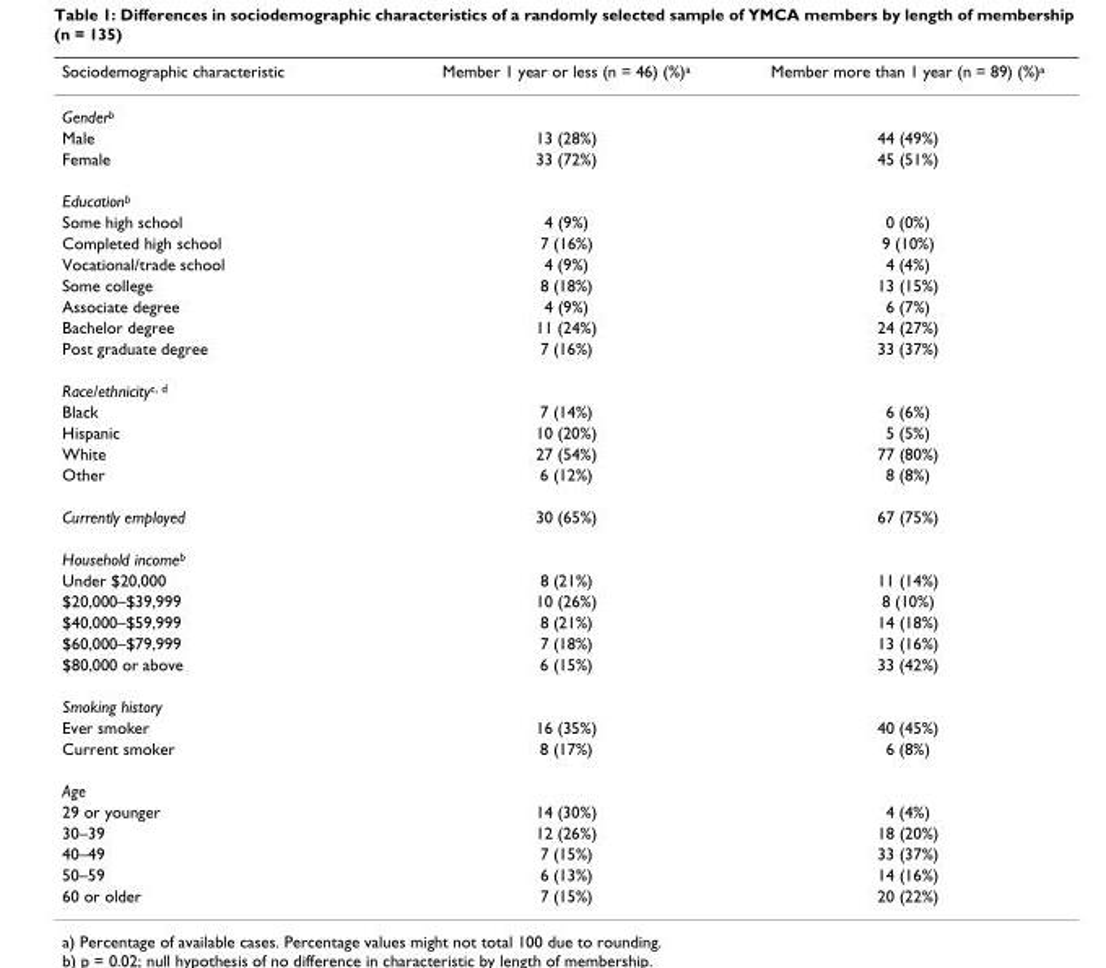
<table><thead><tr><td>Sociodemographic characteristic</td><td>Member 1 year or less (n = 46) (%)<sup>a</sup></td><td>Member more than 1 year (n = 89) (%)<sup>a</sup></td></tr></thead><tbody><tr><td colspan="3">Gender<sup>b</sup></td></tr><tr><td>Male</td><td>13 (28%)</td><td>44 (49%)</td></tr><tr><td>Female</td><td>33 (72%)</td><td>45 (51%)</td></tr><tr><td colspan="3">Education<sup>b</sup></td></tr><tr><td>Some high school</td><td>4 (9%)</td><td>0 (0%)</td></tr><tr><td>Completed high school</td><td>7 (16%)</td><td>9 (10%)</td></tr><tr><td>Vocational/trade school</td><td>4 (9%)</td><td>4 (4%)</td></tr><tr><td>Some college</td><td>8 (18%)</td><td>13 (15%)</td></tr><tr><td>Associate degree</td><td>4 (9%)</td><td>6 (7%)</td></tr><tr><td>Bachelor degree</td><td>11 (24%)</td><td>24 (27%)</td></tr><tr><td>Post graduate degree</td><td>7 (16%)</td><td>33 (37%)</td></tr><tr><td colspan="3">Race/ethnicity<sup>c, d</sup></td></tr><tr><td>Black</td><td>7 (14%)</td><td>6 (6%)</td></tr><tr><td>Hispanic</td><td>10 (20%)</td><td>5 (5%)</td></tr><tr><td>White</td><td>27 (54%)</td><td>77 (80%)</td></tr><tr><td>Other</td><td>6 (12%)</td><td>8 (8%)</td></tr><tr><td>Currently employed</td><td>30 (65%)</td><td>67 (75%)</td></tr><tr><td colspan="3">Household income<sup>b</sup></td></tr><tr><td>Under $20,000</td><td>8 (21%)</td><td>11 (14%)</td></tr><tr><td>$20,000–$39,999</td><td>10 (26%)</td><td>8 (10%)</td></tr><tr><td>$40,000–$59,999</td><td>8 (21%)</td><td>14 (18%)</td></tr><tr><td>$60,000–$79,999</td><td>7 (18%)</td><td>13 (16%)</td></tr><tr><td>$80,000 or above</td><td>6 (15%)</td><td>33 (42%)</td></tr><tr><td colspan="3">Smoking history</td></tr><tr><td>Ever smoker</td><td>16 (35%)</td><td>40 (45%)</td></tr><tr><td>Current smoker</td><td>8 (17%)</td><td>6 (8%)</td></tr><tr><td colspan="3">Age</td></tr><tr><td>29 or younger</td><td>14 (30%)</td><td>4 (4%)</td></tr><tr><td>30–39</td><td>12 (26%)</td><td>18 (20%)</td></tr><tr><td>40–49</td><td>7 (15%)</td><td>33 (37%)</td></tr><tr><td>50–59</td><td>6 (13%)</td><td>14 (16%)</td></tr><tr><td>60 or older</td><td>7 (15%)</td><td>20 (22%)</td></tr></tbody></table>